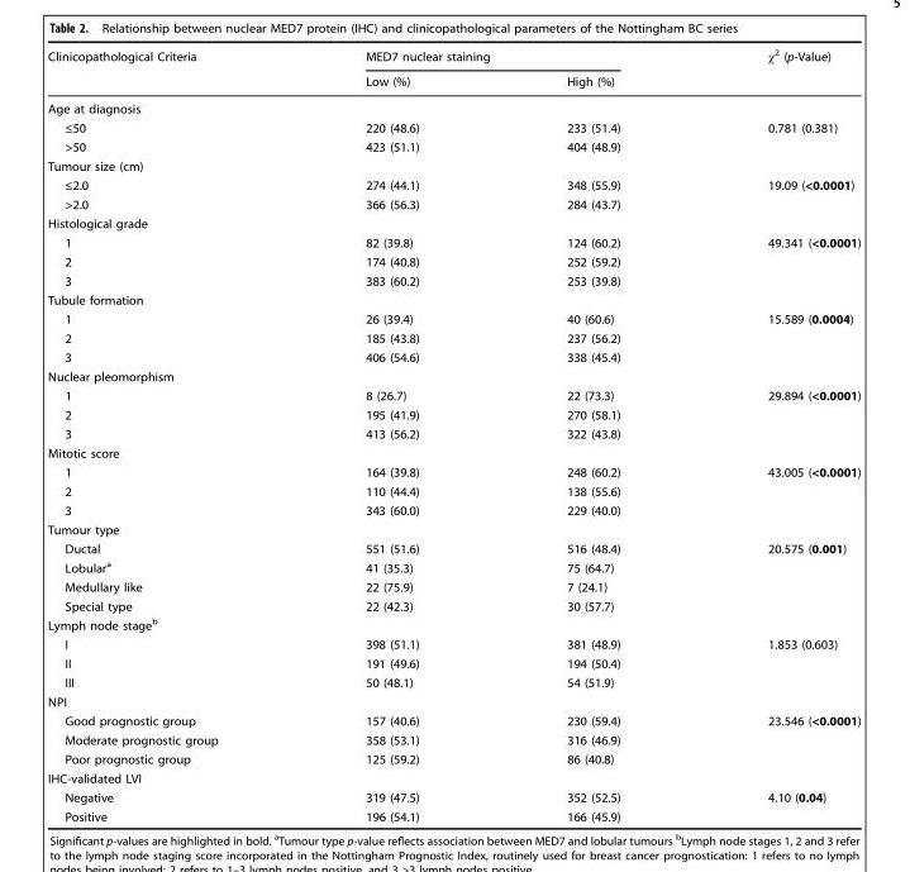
<table><thead><tr><td rowspan="2">Clinicopathological Criteria</td><td colspan="2">MED7 nuclear staining</td><td rowspan="2">χ<sup>2</sup> (p-Value)</td></tr><tr><td>Low (%)</td><td>High (%)</td></tr></thead><tbody><tr><td colspan="4">Age at diagnosis</td></tr><tr><td>≤50</td><td>220 (48.6)</td><td>233 (51.4)</td><td>0.781 (0.381)</td></tr><tr><td>&gt;50</td><td>423 (51.1)</td><td>404 (48.9)</td><td></td></tr><tr><td colspan="4">Tumour size (cm)</td></tr><tr><td>≤2.0</td><td>274 (44.1)</td><td>348 (55.9)</td><td>19.09 (&lt;0.0001)</td></tr><tr><td>&gt;2.0</td><td>366 (56.3)</td><td>284 (43.7)</td><td></td></tr><tr><td colspan="4">Histological grade</td></tr><tr><td>1</td><td>82 (39.8)</td><td>124 (60.2)</td><td>49.341 (&lt;0.0001)</td></tr><tr><td>2</td><td>174 (40.8)</td><td>252 (59.2)</td><td></td></tr><tr><td>3</td><td>383 (60.2)</td><td>253 (39.8)</td><td></td></tr><tr><td colspan="4">Tubule formation</td></tr><tr><td>1</td><td>26 (39.4)</td><td>40 (60.6)</td><td>15.589 (0.0004)</td></tr><tr><td>2</td><td>185 (43.8)</td><td>237 (56.2)</td><td></td></tr><tr><td>3</td><td>406 (54.6)</td><td>338 (45.4)</td><td></td></tr><tr><td colspan="4">Nuclear pleomorphism</td></tr><tr><td>1</td><td>8 (26.7)</td><td>22 (73.3)</td><td>29.894 (&lt;0.0001)</td></tr><tr><td>2</td><td>195 (41.9)</td><td>270 (58.1)</td><td></td></tr><tr><td>3</td><td>413 (56.2)</td><td>322 (43.8)</td><td></td></tr><tr><td colspan="4">Mitotic score</td></tr><tr><td>1</td><td>164 (39.8)</td><td>248 (60.2)</td><td>43.005 (&lt;0.0001)</td></tr><tr><td>2</td><td>110 (44.4)</td><td>138 (55.6)</td><td></td></tr><tr><td>3</td><td>343 (60.0)</td><td>229 (40.0)</td><td></td></tr><tr><td colspan="4">Tumour type</td></tr><tr><td>Ductal</td><td>551 (51.6)</td><td>516 (48.4)</td><td>20.575 (0.001)</td></tr><tr><td>Lobular<sup>a</sup></td><td>41 (35.3)</td><td>75 (64.7)</td><td></td></tr><tr><td>Medullary like</td><td>22 (75.9)</td><td>7 (24.1)</td><td></td></tr><tr><td>Special type</td><td>22 (42.3)</td><td>30 (57.7)</td><td></td></tr><tr><td colspan="4">Lymph node stage<sup>b</sup></td></tr><tr><td>I</td><td>398 (51.1)</td><td>381 (48.9)</td><td>1.853 (0.603)</td></tr><tr><td>II</td><td>191 (49.6)</td><td>194 (50.4)</td><td></td></tr><tr><td>III</td><td>50 (48.1)</td><td>54 (51.9)</td><td></td></tr><tr><td colspan="4">NPI</td></tr><tr><td>Good prognostic group</td><td>157 (40.6)</td><td>230 (59.4)</td><td>23.546 (&lt;0.0001)</td></tr><tr><td>Moderate prognostic group</td><td>358 (53.1)</td><td>316 (46.9)</td><td></td></tr><tr><td>Poor prognostic group</td><td>125 (59.2)</td><td>86 (40.8)</td><td></td></tr><tr><td colspan="4">IHC-validated LVI</td></tr><tr><td>Negative</td><td>319 (47.5)</td><td>352 (52.5)</td><td>4.10 (0.04)</td></tr><tr><td>Positive</td><td>196 (54.1)</td><td>166 (45.9)</td><td></td></tr></tbody></table>